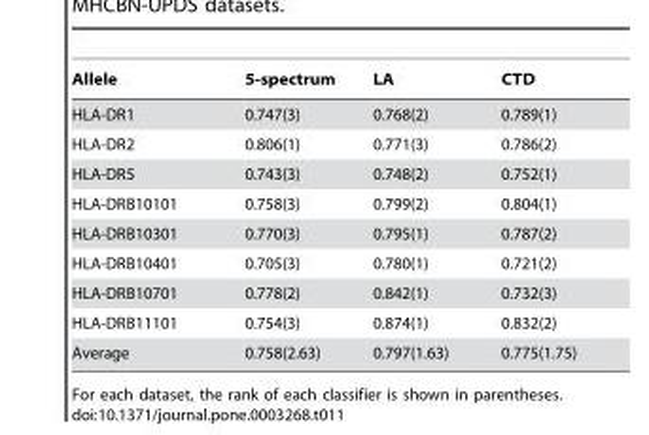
<table><thead><tr><td>Allele</td><td>5-spectrum</td><td>LA</td><td>CTD</td></tr></thead><tbody><tr><td>HLA-DR1</td><td>0.747(3)</td><td>0.768(2)</td><td>0.789(1)</td></tr><tr><td>HLA-DR2</td><td>0.806(1)</td><td>0.771(3)</td><td>0.786(2)</td></tr><tr><td>HLA-DR5</td><td>0.743(3)</td><td>0.748(2)</td><td>0.752(1)</td></tr><tr><td>HLA-DRB10101</td><td>0.758(3)</td><td>0.799(2)</td><td>0.804(1)</td></tr><tr><td>HLA-DRB10301</td><td>0.770(3)</td><td>0.795(1)</td><td>0.787(2)</td></tr><tr><td>HLA-DRB10401</td><td>0.705(3)</td><td>0.780(1)</td><td>0.721(2)</td></tr><tr><td>HLA-DRB10701</td><td>0.778(2)</td><td>0.842(1)</td><td>0.732(3)</td></tr><tr><td>HLA-DRB11101</td><td>0.754(3)</td><td>0.874(1)</td><td>0.832(2)</td></tr><tr><td>Average</td><td>0.758(2.63)</td><td>0.797(1.63)</td><td>0.775(1.75)</td></tr></tbody></table>